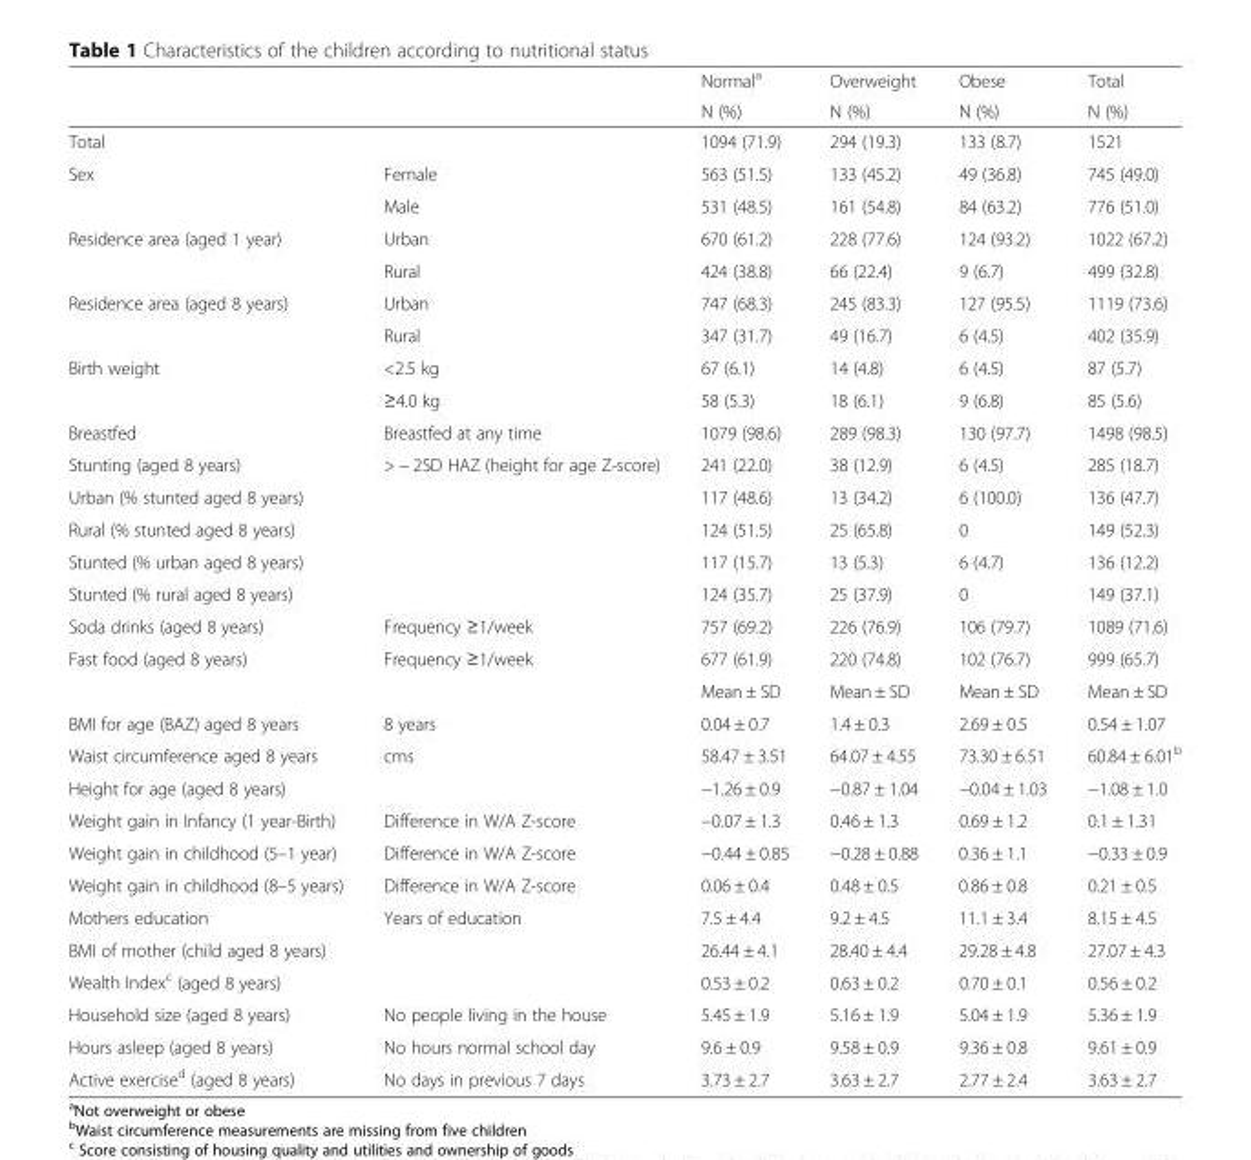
<table><thead><tr><td rowspan="2"></td><td rowspan="2"></td><td rowspan="2">Normal<sup>a</sup> N (%)</td><td rowspan="2">Overweight N (%)</td><td rowspan="2">Obese N (%)</td><td rowspan="2">Total N (%)</td></tr><tr></tr></thead><tbody><tr><td>Total</td><td></td><td>1094 (71.9)</td><td>294 (19.3)</td><td>133 (8.7)</td><td>1521</td></tr><tr><td rowspan="2">Sex</td><td>Female</td><td>563 (51.5)</td><td>133 (45.2)</td><td>49 (36.8)</td><td>745 (49.0)</td></tr><tr><td>Male</td><td>531 (48.5)</td><td>161 (54.8)</td><td>84 (63.2)</td><td>776 (51.0)</td></tr><tr><td rowspan="2">Residence area (aged 1 year)</td><td>Urban</td><td>670 (61.2)</td><td>228 (77.6)</td><td>124 (93.2)</td><td>1022 (67.2)</td></tr><tr><td>Rural</td><td>424 (38.8)</td><td>66 (22.4)</td><td>9 (6.7)</td><td>499 (32.8)</td></tr><tr><td rowspan="2">Residence area (aged 8 years)</td><td>Urban</td><td>747 (68.3)</td><td>245 (83.3)</td><td>127 (95.5)</td><td>1119 (73.6)</td></tr><tr><td>Rural</td><td>347 (31.7)</td><td>49 (16.7)</td><td>6 (4.5)</td><td>402 (35.9)</td></tr><tr><td rowspan="2">Birth weight</td><td>&lt;2.5 kg</td><td>67 (6.1)</td><td>14 (4.8)</td><td>6 (4.5)</td><td>87 (5.7)</td></tr><tr><td>≥4.0 kg</td><td>58 (5.3)</td><td>18 (6.1)</td><td>9 (6.8)</td><td>85 (5.6)</td></tr><tr><td>Breastfed</td><td>Breastfed at any time</td><td>1079 (98.6)</td><td>289 (98.3)</td><td>130 (97.7)</td><td>1498 (98.5)</td></tr><tr><td>Stunting (aged 8 years)</td><td rowspan="5">&gt; − 2SD HAZ (height for age Z-score)</td><td>241 (22.0)</td><td>38 (12.9)</td><td>6 (4.5)</td><td>285 (18.7)</td></tr><tr><td>Urban (% stunted aged 8 years)</td><td>117 (48.6)</td><td>13 (34.2)</td><td>6 (100.0)</td><td>136 (47.7)</td></tr><tr><td>Rural (% stunted aged 8 years)</td><td>124 (51.5)</td><td>25 (65.8)</td><td>0</td><td>149 (52.3)</td></tr><tr><td>Stunted (% urban aged 8 years)</td><td>117 (15.7)</td><td>13 (5.3)</td><td>6 (4.7)</td><td>136 (12.2)</td></tr><tr><td>Stunted (% rural aged 8 years)</td><td>124 (35.7)</td><td>25 (37.9)</td><td>0</td><td>149 (37.1)</td></tr><tr><td>Soda drinks (aged 8 years)</td><td>Frequency ≥1/week</td><td>757 (69.2)</td><td>226 (76.9)</td><td>106 (79.7)</td><td>1089 (71.6)</td></tr><tr><td rowspan="2">Fast food (aged 8 years)</td><td>Frequency ≥1/week</td><td>677 (61.9)</td><td>220 (74.8)</td><td>102 (76.7)</td><td>999 (65.7)</td></tr><tr><td></td><td>Mean ± SD</td><td>Mean ± SD</td><td>Mean ± SD</td><td>Mean ± SD</td></tr><tr><td>BMI for age (BAZ) aged 8 years</td><td>8 years</td><td>0.04 ± 0.7</td><td>1.4 ± 0.3</td><td>2.69 ± 0.5</td><td>0.54 ± 1.07</td></tr><tr><td>Waist circumference aged 8 years</td><td>cms</td><td>58.47 ± 3.51</td><td>64.07 ± 4.55</td><td>73.30 ± 6.51</td><td>60.84 ± 6.01<sup>b</sup></td></tr><tr><td>Height for age (aged 8 years)</td><td></td><td>−1.26 ± 0.9</td><td>−0.87 ± 1.04</td><td>−0.04 ± 1.03</td><td>−1.08 ± 1.0</td></tr><tr><td>Weight gain in Infancy (1 year-Birth)</td><td>Difference in W/A Z-score</td><td>−0.07 ± 1.3</td><td>0.46 ± 1.3</td><td>0.69 ± 1.2</td><td>0.1 ± 1.31</td></tr><tr><td>Weight gain in childhood (5–1 year)</td><td>Difference in W/A Z-score</td><td>−0.44 ± 0.85</td><td>−0.28 ± 0.88</td><td>0.36 ± 1.1</td><td>−0.33 ± 0.9</td></tr><tr><td>Weight gain in childhood (8–5 years)</td><td>Difference in W/A Z-score</td><td>0.06 ± 0.4</td><td>0.48 ± 0.5</td><td>0.86 ± 0.8</td><td>0.21 ± 0.5</td></tr><tr><td>Mothers education</td><td>Years of education</td><td>7.5 ± 4.4</td><td>9.2 ± 4.5</td><td>11.1 ± 3.4</td><td>8.15 ± 4.5</td></tr><tr><td>BMI of mother (child aged 8 years)</td><td></td><td>26.44 ± 4.1</td><td>28.40 ± 4.4</td><td>29.28 ± 4.8</td><td>27.07 ± 4.3</td></tr><tr><td>Wealth Index<sup>c</sup> (aged 8 years)</td><td></td><td>0.53 ± 0.2</td><td>0.63 ± 0.2</td><td>0.70 ± 0.1</td><td>0.56 ± 0.2</td></tr><tr><td>Household size (aged 8 years)</td><td>No people living in the house</td><td>5.45 ± 1.9</td><td>5.16 ± 1.9</td><td>5.04 ± 1.9</td><td>5.36 ± 1.9</td></tr><tr><td>Hours asleep (aged 8 years)</td><td>No hours normal school day</td><td>9.6 ± 0.9</td><td>9.58 ± 0.9</td><td>9.36 ± 0.8</td><td>9.61 ± 0.9</td></tr><tr><td>Active exercise<sup>d</sup> (aged 8 years)</td><td>No days in previous 7 days</td><td>3.73 ± 2.7</td><td>3.63 ± 2.7</td><td>2.77 ± 2.4</td><td>3.63 ± 2.7</td></tr></tbody></table>